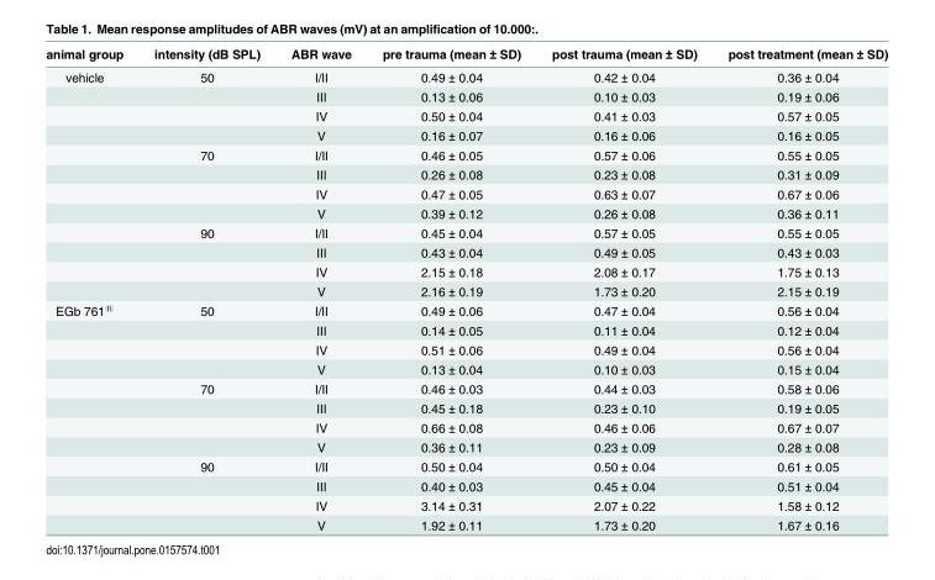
<table><thead><tr><td>animal group</td><td>intensity (dB SPL)</td><td>ABR wave</td><td>pre trauma (mean ± SD)</td><td>post trauma (mean ± SD)</td><td>post treatment (mean ± SD)</td></tr></thead><tbody><tr><td rowspan="12">vehicle</td><td>50</td><td>I/II</td><td>0.49 ± 0.04</td><td>0.42 ± 0.04</td><td>0.36 ± 0.04</td></tr><tr><td></td><td>III</td><td>0.13 ± 0.06</td><td>0.10 ± 0.03</td><td>0.19 ± 0.06</td></tr><tr><td></td><td>IV</td><td>0.50 ± 0.04</td><td>0.41 ± 0.03</td><td>0.57 ± 0.05</td></tr><tr><td></td><td>V</td><td>0.16 ± 0.07</td><td>0.16 ± 0.06</td><td>0.16 ± 0.05</td></tr><tr><td>70</td><td>I/II</td><td>0.46 ± 0.05</td><td>0.57 ± 0.06</td><td>0.55 ± 0.05</td></tr><tr><td></td><td>III</td><td>0.26 ± 0.08</td><td>0.23 ± 0.08</td><td>0.31 ± 0.09</td></tr><tr><td></td><td>IV</td><td>0.47 ± 0.05</td><td>0.63 ± 0.07</td><td>0.67 ± 0.06</td></tr><tr><td></td><td>V</td><td>0.39 ± 0.12</td><td>0.26 ± 0.08</td><td>0.36 ± 0.11</td></tr><tr><td>90</td><td>I/II</td><td>0.45 ± 0.04</td><td>0.57 ± 0.05</td><td>0.55 ± 0.05</td></tr><tr><td></td><td>III</td><td>0.43 ± 0.04</td><td>0.49 ± 0.05</td><td>0.43 ± 0.03</td></tr><tr><td></td><td>IV</td><td>2.15 ± 0.18</td><td>2.08 ± 0.17</td><td>1.75 ± 0.13</td></tr><tr><td></td><td>V</td><td>2.16 ± 0.19</td><td>1.73 ± 0.20</td><td>2.15 ± 0.19</td></tr><tr><td rowspan="12">EGb 761<sup>®</sup></td><td>50</td><td>I/II</td><td>0.49 ± 0.06</td><td>0.47 ± 0.04</td><td>0.56 ± 0.04</td></tr><tr><td></td><td>III</td><td>0.14 ± 0.05</td><td>0.11 ± 0.04</td><td>0.12 ± 0.04</td></tr><tr><td></td><td>IV</td><td>0.51 ± 0.06</td><td>0.49 ± 0.04</td><td>0.56 ± 0.04</td></tr><tr><td></td><td>V</td><td>0.13 ± 0.04</td><td>0.10 ± 0.03</td><td>0.15 ± 0.04</td></tr><tr><td>70</td><td>I/II</td><td>0.46 ± 0.03</td><td>0.44 ± 0.03</td><td>0.58 ± 0.06</td></tr><tr><td></td><td>III</td><td>0.45 ± 0.18</td><td>0.23 ± 0.10</td><td>0.19 ± 0.05</td></tr><tr><td></td><td>IV</td><td>0.66 ± 0.08</td><td>0.46 ± 0.06</td><td>0.67 ± 0.07</td></tr><tr><td></td><td>V</td><td>0.36 ± 0.11</td><td>0.23 ± 0.09</td><td>0.28 ± 0.08</td></tr><tr><td>90</td><td>I/II</td><td>0.50 ± 0.04</td><td>0.50 ± 0.04</td><td>0.61 ± 0.05</td></tr><tr><td></td><td>III</td><td>0.40 ± 0.03</td><td>0.45 ± 0.04</td><td>0.51 ± 0.04</td></tr><tr><td></td><td>IV</td><td>3.14 ± 0.31</td><td>2.07 ± 0.22</td><td>1.58 ± 0.12</td></tr><tr><td></td><td>V</td><td>1.92 ± 0.11</td><td>1.73 ± 0.20</td><td>1.67 ± 0.16</td></tr></tbody></table>